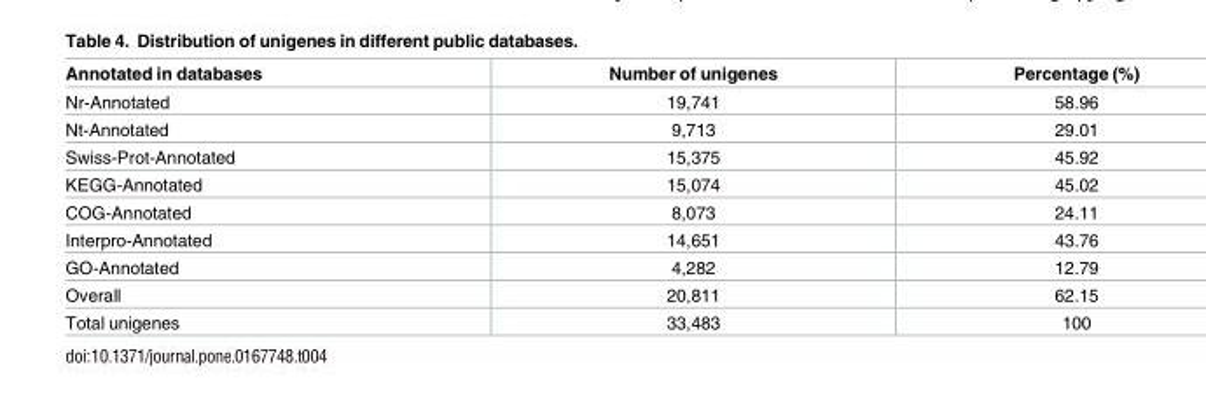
<table><thead><tr><td>Annotated in databases</td><td>Number of unigenes</td><td>Percentage (%)</td></tr></thead><tbody><tr><td>Nr-Annotated</td><td>19,741</td><td>58.96</td></tr><tr><td>Nt-Annotated</td><td>9,713</td><td>29.01</td></tr><tr><td>Swiss-Prot-Annotated</td><td>15,375</td><td>45.92</td></tr><tr><td>KEGG-Annotated</td><td>15,074</td><td>45.02</td></tr><tr><td>COG-Annotated</td><td>8,073</td><td>24.11</td></tr><tr><td>Interpro-Annotated</td><td>14,651</td><td>43.76</td></tr><tr><td>GO-Annotated</td><td>4,282</td><td>12.79</td></tr><tr><td>Overall</td><td>20,811</td><td>62.15</td></tr><tr><td>Total unigenes</td><td>33,483</td><td>100</td></tr></tbody></table>